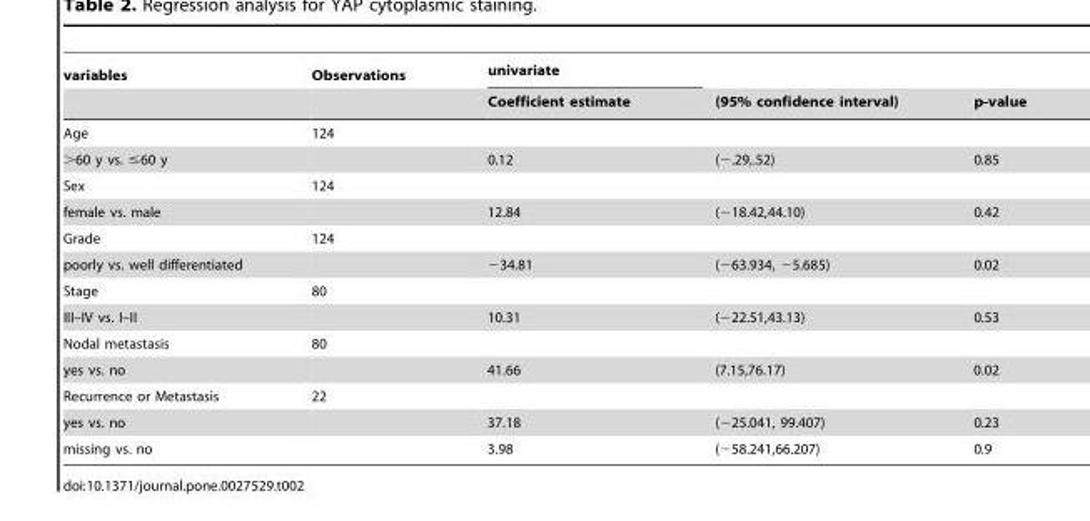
<table><thead><tr><td rowspan="2">variables</td><td rowspan="2">Observations</td><td rowspan="2">univariate Coefficient estimate</td><td rowspan="2">(95% confidence interval)</td><td rowspan="2">p-value</td></tr><tr></tr></thead><tbody><tr><td>Age</td><td>124</td><td></td><td></td><td></td></tr><tr><td>&gt;60 y vs. ≤60 y</td><td></td><td>0.12</td><td>(−.29,.52)</td><td>0.85</td></tr><tr><td>Sex</td><td>124</td><td></td><td></td><td></td></tr><tr><td>female vs. male</td><td></td><td>12.84</td><td>(−18.42,44.10)</td><td>0.42</td></tr><tr><td>Grade</td><td>124</td><td></td><td></td><td></td></tr><tr><td>poorly vs. well differentiated</td><td></td><td>−34.81</td><td>(−63.934, −5.685)</td><td>0.02</td></tr><tr><td>Stage</td><td>80</td><td></td><td></td><td></td></tr><tr><td>III–IV vs. I–II</td><td></td><td>10.31</td><td>(−22.51,43.13)</td><td>0.53</td></tr><tr><td>Nodal metastasis</td><td>80</td><td></td><td></td><td></td></tr><tr><td>yes vs. no</td><td></td><td>41.66</td><td>(7.15,76.17)</td><td>0.02</td></tr><tr><td>Recurrence or Metastasis</td><td>22</td><td></td><td></td><td></td></tr><tr><td>yes vs. no</td><td></td><td>37.18</td><td>(−25.041, 99.407)</td><td>0.23</td></tr><tr><td>missing vs. no</td><td></td><td>3.98</td><td>(−58.241,66.207)</td><td>0.9</td></tr></tbody></table>